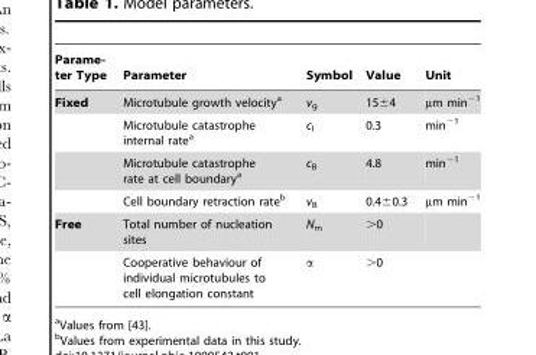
<table><thead><tr><td>Parame- ter Type</td><td>Parameter</td><td>Symbol</td><td>Value</td><td>Unit</td></tr></thead><tbody><tr><td rowspan="4">Fixed</td><td>Microtubule growth velocity<sup>a</sup></td><td>v<sub>g</sub></td><td>15±4</td><td>µm min<sup>−1</sup></td></tr><tr><td>Microtubule catastrophe internal rate<sup>a</sup></td><td>c<sub>I</sub></td><td>0.3</td><td>min<sup>−1</sup></td></tr><tr><td>Microtubule catastrophe rate at cell boundary<sup>a</sup></td><td>c<sub>B</sub></td><td>4.8</td><td>min<sup>−1</sup></td></tr><tr><td>Cell boundary retraction rate<sup>b</sup></td><td>v<sub>B</sub></td><td>0.4±0.3</td><td>µm min<sup>−1</sup></td></tr><tr><td rowspan="2">Free</td><td>Total number of nucleation sites</td><td>N<sub>m</sub></td><td>&gt;0</td><td></td></tr><tr><td>Cooperative behaviour of individual microtubules to cell elongation constant</td><td>α</td><td>&gt;0</td><td></td></tr></tbody></table>